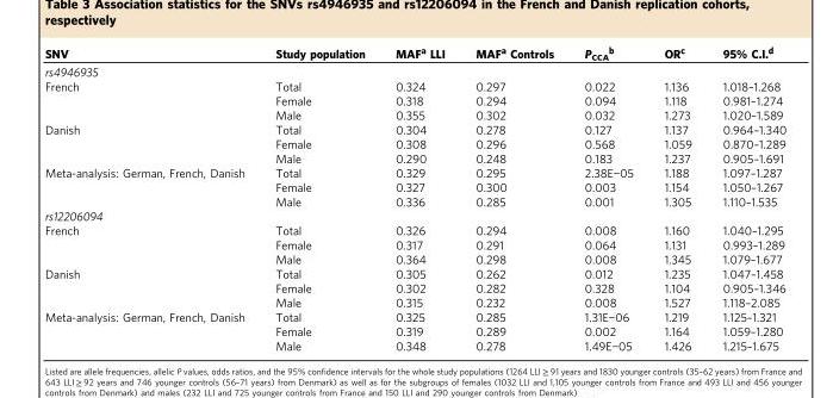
<table><thead><tr><td>SNV</td><td>Study population</td><td>MAF<sup>a</sup> LLI</td><td>MAF<sup>a</sup> Controls</td><td>P<sub>CCA</sub><sup>b</sup></td><td>OR<sup>c</sup></td><td>95% C.I.<sup>d</sup></td></tr></thead><tbody><tr><td colspan="7">rs4946935</td></tr><tr><td rowspan="3">French</td><td>Total</td><td>0.324</td><td>0.297</td><td>0.022</td><td>1.136</td><td>1.018–1.268</td></tr><tr><td>Female</td><td>0.318</td><td>0.294</td><td>0.094</td><td>1.118</td><td>0.981–1.274</td></tr><tr><td>Male</td><td>0.355</td><td>0.302</td><td>0.032</td><td>1.273</td><td>1.020–1.589</td></tr><tr><td rowspan="3">Danish</td><td>Total</td><td>0.304</td><td>0.278</td><td>0.127</td><td>1.137</td><td>0.964–1.340</td></tr><tr><td>Female</td><td>0.308</td><td>0.296</td><td>0.568</td><td>1.059</td><td>0.870–1.289</td></tr><tr><td>Male</td><td>0.290</td><td>0.248</td><td>0.183</td><td>1.237</td><td>0.905–1.691</td></tr><tr><td rowspan="3">Meta-analysis: German, French, Danish</td><td>Total</td><td>0.329</td><td>0.295</td><td>2.38E−05</td><td>1.188</td><td>1.097–1.287</td></tr><tr><td>Female</td><td>0.327</td><td>0.300</td><td>0.003</td><td>1.154</td><td>1.050–1.267</td></tr><tr><td>Male</td><td>0.336</td><td>0.285</td><td>0.001</td><td>1.305</td><td>1.110–1.535</td></tr><tr><td colspan="7">rs12206094</td></tr><tr><td rowspan="3">French</td><td>Total</td><td>0.326</td><td>0.294</td><td>0.008</td><td>1.160</td><td>1.040–1.295</td></tr><tr><td>Female</td><td>0.317</td><td>0.291</td><td>0.064</td><td>1.131</td><td>0.993–1.289</td></tr><tr><td>Male</td><td>0.364</td><td>0.298</td><td>0.008</td><td>1.345</td><td>1.079–1.677</td></tr><tr><td rowspan="3">Danish</td><td>Total</td><td>0.305</td><td>0.262</td><td>0.012</td><td>1.235</td><td>1.047–1.458</td></tr><tr><td>Female</td><td>0.302</td><td>0.282</td><td>0.328</td><td>1.104</td><td>0.905–1.346</td></tr><tr><td>Male</td><td>0.315</td><td>0.232</td><td>0.008</td><td>1.527</td><td>1.118–2.085</td></tr><tr><td rowspan="3">Meta-analysis: German, French, Danish</td><td>Total</td><td>0.325</td><td>0.285</td><td>1.31E−06</td><td>1.219</td><td>1.125–1.321</td></tr><tr><td>Female</td><td>0.319</td><td>0.289</td><td>0.002</td><td>1.164</td><td>1.059–1.280</td></tr><tr><td>Male</td><td>0.348</td><td>0.278</td><td>1.49E−05</td><td>1.426</td><td>1.215–1.675</td></tr></tbody></table>